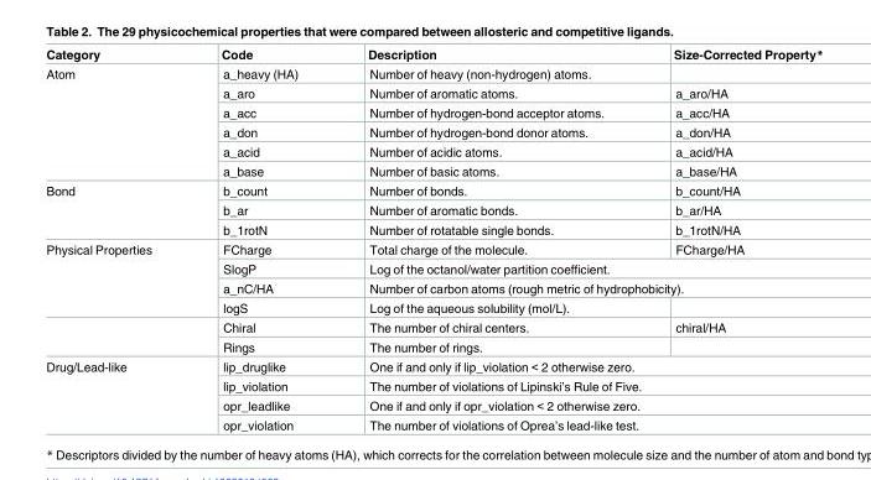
<table><thead><tr><td>Category</td><td>Code</td><td>Description</td><td>Size-Corrected Property*</td></tr></thead><tbody><tr><td rowspan="6">Atom</td><td>a_heavy (HA)</td><td>Number of heavy (non-hydrogen) atoms.</td><td></td></tr><tr><td>a_aro</td><td>Number of aromatic atoms.</td><td>a_aro/HA</td></tr><tr><td>a_acc</td><td>Number of hydrogen-bond acceptor atoms.</td><td>a_acc/HA</td></tr><tr><td>a_don</td><td>Number of hydrogen-bond donor atoms.</td><td>a_don/HA</td></tr><tr><td>a_acid</td><td>Number of acidic atoms.</td><td>a_acid/HA</td></tr><tr><td>a_base</td><td>Number of basic atoms.</td><td>a_base/HA</td></tr><tr><td rowspan="3">Bond</td><td>b_count</td><td>Number of bonds.</td><td>b_count/HA</td></tr><tr><td>b_ar</td><td>Number of aromatic bonds.</td><td>b_ar/HA</td></tr><tr><td>b_1rotN</td><td>Number of rotatable single bonds.</td><td>b_1rotN/HA</td></tr><tr><td rowspan="6">Physical Properties</td><td>FCharge</td><td>Total charge of the molecule.</td><td>FCharge/HA</td></tr><tr><td>SlogP</td><td colspan="2">Log of the octanol/water partition coefficient.</td></tr><tr><td>a_nC/HA</td><td colspan="2">Number of carbon atoms (rough metric of hydrophobicity).</td></tr><tr><td>logS</td><td>Log of the aqueous solubility (mol/L).</td><td></td></tr><tr><td>Chiral</td><td>The number of chiral centers.</td><td>chiral/HA</td></tr><tr><td>Rings</td><td>The number of rings.</td><td></td></tr><tr><td rowspan="4">Drug/Lead-like</td><td>lip_druglike</td><td colspan="2">One if and only if lip_violation &lt; 2 otherwise zero.</td></tr><tr><td>lip_violation</td><td colspan="2">The number of violations of Lipinski’s Rule of Five.</td></tr><tr><td>opr_leadlike</td><td colspan="2">One if and only if opr_violation &lt; 2 otherwise zero.</td></tr><tr><td>opr_violation</td><td colspan="2">The number of violations of Oprea’s lead-like test.</td></tr></tbody></table>